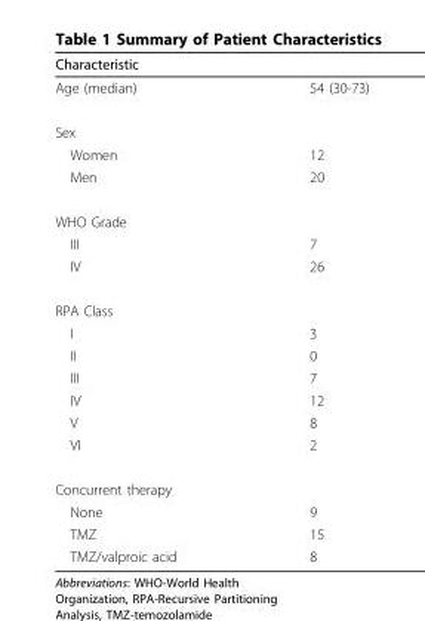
<table><thead><tr><td>Characteristic</td><td></td></tr></thead><tbody><tr><td>Age (median)</td><td>54 (30-73)</td></tr><tr><td colspan="2">Sex</td></tr><tr><td>Women</td><td>12</td></tr><tr><td>Men</td><td>20</td></tr><tr><td colspan="2">WHO Grade</td></tr><tr><td>III</td><td>7</td></tr><tr><td>IV</td><td>26</td></tr><tr><td colspan="2">RPA Class</td></tr><tr><td>I</td><td>3</td></tr><tr><td>II</td><td>0</td></tr><tr><td>III</td><td>7</td></tr><tr><td>IV</td><td>12</td></tr><tr><td>V</td><td>8</td></tr><tr><td>VI</td><td>2</td></tr><tr><td colspan="2">Concurrent therapy</td></tr><tr><td>None</td><td>9</td></tr><tr><td>TMZ</td><td>15</td></tr><tr><td>TMZ/valproic acid</td><td>8</td></tr></tbody></table>